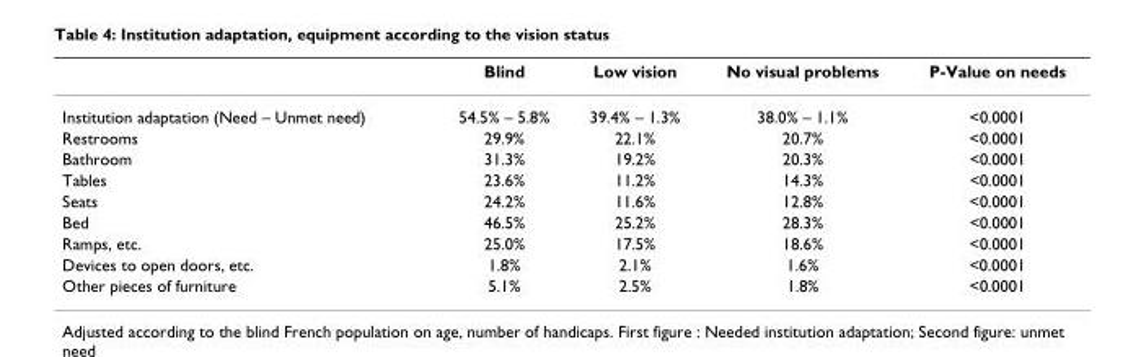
<table><thead><tr><td></td><td>Blind</td><td>Low vision</td><td>No visual problems</td><td>P-Value on needs</td></tr></thead><tbody><tr><td>Institution adaptation (Need – Unmet need)</td><td>54.5% – 5.8%</td><td>39.4% – 1.3%</td><td>38.0% – 1.1%</td><td>&lt;0.0001</td></tr><tr><td>Restrooms</td><td>29.9%</td><td>22.1%</td><td>20.7%</td><td>&lt;0.0001</td></tr><tr><td>Bathroom</td><td>31.3%</td><td>19.2%</td><td>20.3%</td><td>&lt;0.0001</td></tr><tr><td>Tables</td><td>23.6%</td><td>11.2%</td><td>14.3%</td><td>&lt;0.0001</td></tr><tr><td>Seats</td><td>24.2%</td><td>11.6%</td><td>12.8%</td><td>&lt;0.0001</td></tr><tr><td>Bed</td><td>46.5%</td><td>25.2%</td><td>28.3%</td><td>&lt;0.0001</td></tr><tr><td>Ramps, etc.</td><td>25.0%</td><td>17.5%</td><td>18.6%</td><td>&lt;0.0001</td></tr><tr><td>Devices to open doors, etc.</td><td>1.8%</td><td>2.1%</td><td>1.6%</td><td>&lt;0.0001</td></tr><tr><td>Other pieces of furniture</td><td>5.1%</td><td>2.5%</td><td>1.8%</td><td>&lt;0.0001</td></tr></tbody></table>